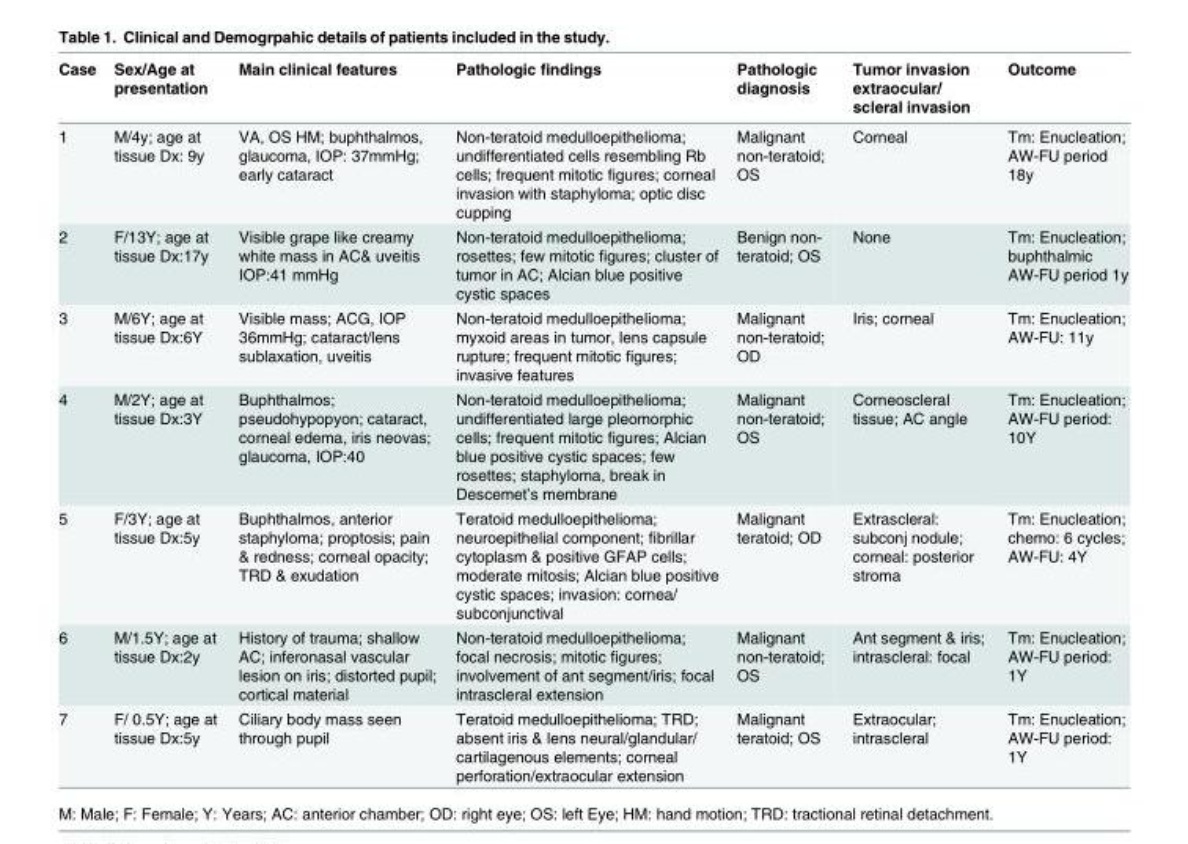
<table><thead><tr><td>Case</td><td>Sex/Age at presentation</td><td>Main clinical features</td><td>Pathologic findings</td><td>Pathologic diagnosis</td><td>Tumor invasion extraocular/ scleral invasion</td><td>Outcome</td></tr></thead><tbody><tr><td>1</td><td>M/4y; age at tissue Dx: 9y</td><td>VA, OS HM; buphthalmos, glaucoma, IOP: 37mmHg; early cataract</td><td>Non-teratoid medulloepithelioma; undifferentiated cells resembling Rb cells; frequent mitotic figures; corneal invasion with staphyloma; optic disc cupping</td><td>Malignant non-teratoid; OS</td><td>Corneal</td><td>Tm: Enucleation; AW-FU period 18y</td></tr><tr><td>2</td><td>F/13Y; age at tissue Dx:17y</td><td>Visible grape like creamy white mass in AC&amp; uveitis IOP:41 mmHg</td><td>Non-teratoid medulloepithelioma; rosettes; few mitotic figures; cluster of tumor in AC; Alcian blue positive cystic spaces</td><td>Benign non- teratoid; OS</td><td>None</td><td>Tm: Enucleation; buphthalmic AW-FU period 1y</td></tr><tr><td>3</td><td>M/6Y; age at tissue Dx:6Y</td><td>Visible mass; ACG, IOP 36mmHg; cataract/lens sublaxation, uveitis</td><td>Non-teratoid medulloepithelioma; myxoid areas in tumor, lens capsule rupture; frequent mitotic figures; invasive features</td><td>Malignant non-teratoid; OD</td><td>Iris; corneal</td><td>Tm: Enucleation; AW-FU: 11y</td></tr><tr><td>4</td><td>M/2Y; age at tissue Dx:3Y</td><td>Buphthalmos; pseudohypopyon; cataract, corneal edema, iris neovas; glaucoma, IOP:40</td><td>Non-teratoid medulloepithelioma; undifferentiated large pleomorphic cells; frequent mitotic figures; Alcian blue positive cystic spaces; few rosettes; staphyloma, break in Descemet’s membrane</td><td>Malignant non-teratoid; OS</td><td>Corneoscleral tissue; AC angle</td><td>Tm: Enucleation; AW-FU period: 10Y</td></tr><tr><td>5</td><td>F/3Y; age at tissue Dx:5y</td><td>Buphthalmos, anterior staphyloma; proptosis; pain &amp; redness; corneal opacity; TRD &amp; exudation</td><td>Teratoid medulloepithelioma; neuroepithelial component; fibrillar cytoplasm &amp; positive GFAP cells; moderate mitosis; Alcian blue positive cystic spaces; invasion: cornea/ subconjunctival</td><td>Malignant teratoid; OD</td><td>Extrascleral: subconj nodule; corneal: posterior stroma</td><td>Tm: Enucleation; chemo: 6 cycles; AW-FU: 4Y</td></tr><tr><td>6</td><td>M/1.5Y; age at tissue Dx:2y</td><td>History of trauma; shallow AC; inferonasal vascular lesion on iris; distorted pupil; cortical material</td><td>Non-teratoid medulloepithelioma; focal necrosis; mitotic figures; involvement of ant segment/iris; focal intrascleral extension</td><td>Malignant non-teratoid; OS</td><td>Ant segment &amp; iris; intrascleral: focal</td><td>Tm: Enucleation; AW-FU period: 1Y</td></tr><tr><td>7</td><td>F/ 0.5Y; age at tissue Dx:5y</td><td>Ciliary body mass seen through pupil</td><td>Teratoid medulloepithelioma; TRD; absent iris &amp; lens neural/glandular/ cartilagenous elements; corneal perforation/extraocular extension</td><td>Malignant teratoid; OS</td><td>Extraocular; intrascleral</td><td>Tm: Enucleation; AW-FU period: 1Y</td></tr></tbody></table>